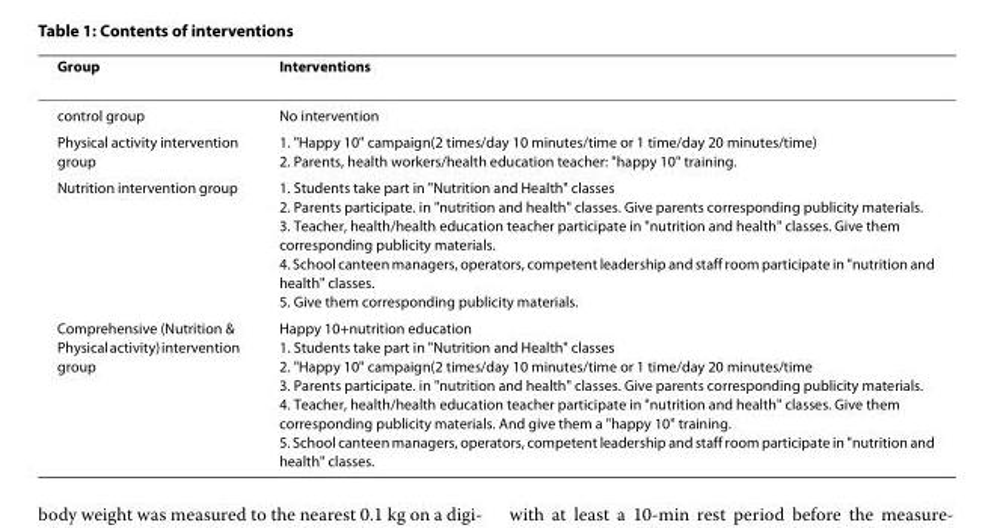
<table><thead><tr><td>Group</td><td>Interventions</td></tr></thead><tbody><tr><td>control group</td><td>No intervention</td></tr><tr><td>Physical activity intervention group</td><td>1. &quot;Happy 10&quot; campaign(2 times/day 10 minutes/time or 1 time/day 20 minutes/time) 2. Parents, health workers/health education teacher: &quot;happy 10&quot; training.</td></tr><tr><td>Nutrition intervention group</td><td>1. Students take part in &quot;Nutrition and Health&quot; classes 2. Parents participate. in &quot;nutrition and health&quot; classes. Give parents corresponding publicity materials. 3. Teacher, health/health education teacher participate in &quot;nutrition and health&quot; classes. Give them corresponding publicity materials. 4. School canteen managers, operators, competent leadership and staff room participate in &quot;nutrition and health&quot; classes. 5. Give them corresponding publicity materials.</td></tr><tr><td>Comprehensive (Nutrition &amp; Physical activity) intervention group</td><td>Happy 10+nutrition education 1. Students take part in &quot;Nutrition and Health&quot; classes 2. &quot;Happy 10&quot; campaign(2 times/day 10 minutes/time or 1 time/day 20 minutes/time 3. Parents participate. in &quot;nutrition and health&quot; classes. Give parents corresponding publicity materials. 4. Teacher, health/health education teacher participate in &quot;nutrition and health&quot; classes. Give them corresponding publicity materials. And give them a &quot;happy 10&quot; training. 5. School canteen managers, operators, competent leadership and staff room participate in &quot;nutrition and health&quot; classes.</td></tr></tbody></table>